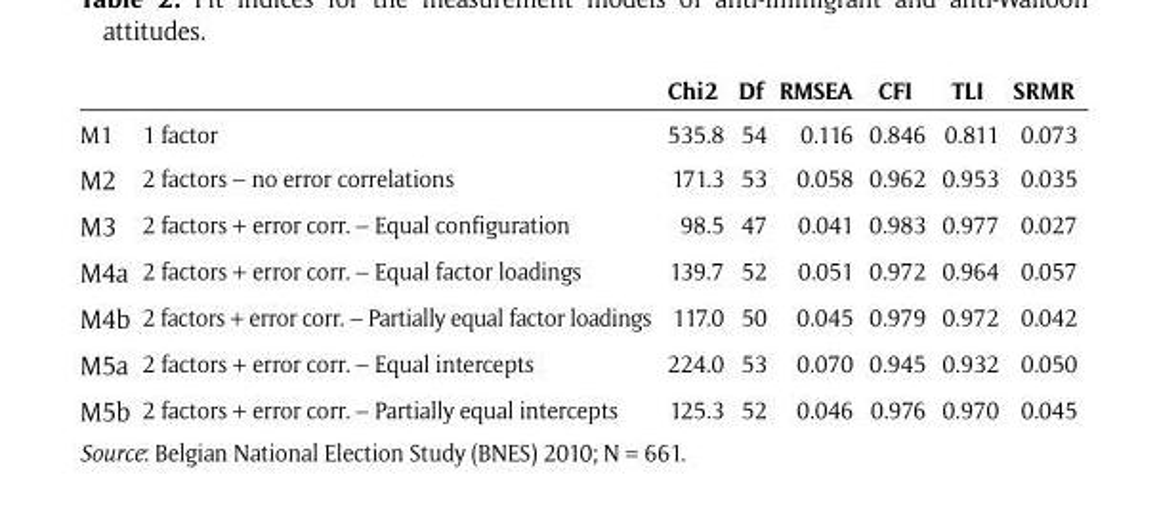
<table><thead><tr><td></td><td></td><td>Chi2</td><td>Df</td><td>RMSEA</td><td>CFI</td><td>TLI</td><td>SRMR</td></tr></thead><tbody><tr><td>M1</td><td>1 factor</td><td>535.8</td><td>54</td><td>0.116</td><td>0.846</td><td>0.811</td><td>0.073</td></tr><tr><td>M2</td><td>2 factors – no error correlations</td><td>171.3</td><td>53</td><td>0.058</td><td>0.962</td><td>0.953</td><td>0.035</td></tr><tr><td>M3</td><td>2 factors + error corr. – Equal configuration</td><td>98.5</td><td>47</td><td>0.041</td><td>0.983</td><td>0.977</td><td>0.027</td></tr><tr><td>M4a</td><td>2 factors + error corr. – Equal factor loadings</td><td>139.7</td><td>52</td><td>0.051</td><td>0.972</td><td>0.964</td><td>0.057</td></tr><tr><td>M4b</td><td>2 factors + error corr. – Partially equal factor loadings</td><td>117.0</td><td>50</td><td>0.045</td><td>0.979</td><td>0.972</td><td>0.042</td></tr><tr><td>M5a</td><td>2 factors + error corr. – Equal intercepts</td><td>224.0</td><td>53</td><td>0.070</td><td>0.945</td><td>0.932</td><td>0.050</td></tr><tr><td>M5b</td><td>2 factors + error corr. – Partially equal intercepts</td><td>125.3</td><td>52</td><td>0.046</td><td>0.976</td><td>0.970</td><td>0.045</td></tr></tbody></table>